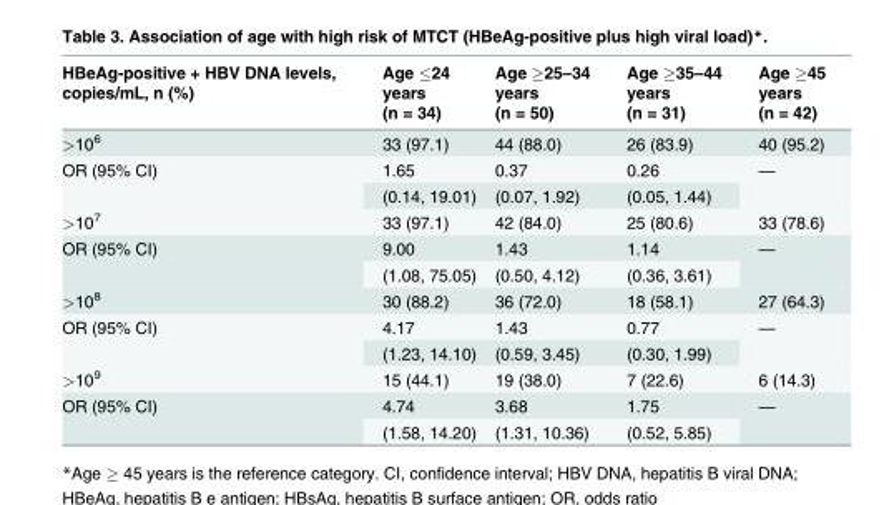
<table><thead><tr><td rowspan="2">HBeAg-positive + HBV DNA levels, copies/mL, n (%)</td><td rowspan="2">Age ≤24 years (n = 34)</td><td rowspan="2">Age ≥25–34 years (n = 50)</td><td rowspan="2">Age ≥35–44 years (n = 31)</td><td rowspan="2">Age ≥45 years (n = 42)</td></tr><tr></tr></thead><tbody><tr><td>&gt;10<sup>6</sup></td><td>33 (97.1)</td><td>44 (88.0)</td><td>26 (83.9)</td><td>40 (95.2)</td></tr><tr><td rowspan="2">OR (95% CI)</td><td>1.65</td><td>0.37</td><td>0.26</td><td rowspan="2">—</td></tr><tr><td>(0.14, 19.01)</td><td>(0.07, 1.92)</td><td>(0.05, 1.44)</td></tr><tr><td>&gt;10<sup>7</sup></td><td>33 (97.1)</td><td>42 (84.0)</td><td>25 (80.6)</td><td>33 (78.6)</td></tr><tr><td rowspan="2">OR (95% CI)</td><td>9.00</td><td>1.43</td><td>1.14</td><td rowspan="2">—</td></tr><tr><td>(1.08, 75.05)</td><td>(0.50, 4.12)</td><td>(0.36, 3.61)</td></tr><tr><td>&gt;10<sup>8</sup></td><td>30 (88.2)</td><td>36 (72.0)</td><td>18 (58.1)</td><td>27 (64.3)</td></tr><tr><td rowspan="2">OR (95% CI)</td><td>4.17</td><td>1.43</td><td>0.77</td><td rowspan="2">—</td></tr><tr><td>(1.23, 14.10)</td><td>(0.59, 3.45)</td><td>(0.30, 1.99)</td></tr><tr><td>&gt;10<sup>9</sup></td><td>15 (44.1)</td><td>19 (38.0)</td><td>7 (22.6)</td><td>6 (14.3)</td></tr><tr><td rowspan="2">OR (95% CI)</td><td>4.74</td><td>3.68</td><td>1.75</td><td rowspan="2">—</td></tr><tr><td>(1.58, 14.20)</td><td>(1.31, 10.36)</td><td>(0.52, 5.85)</td></tr></tbody></table>